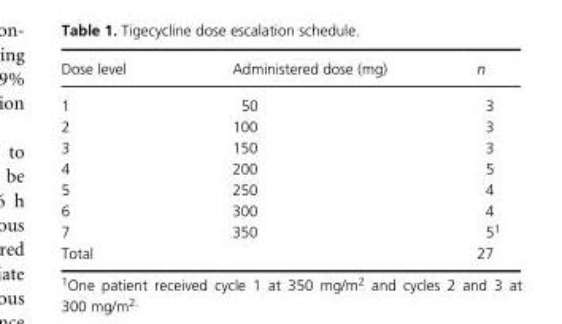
<table><thead><tr><td>Dose level</td><td>Administered dose (mg)</td><td>n</td></tr></thead><tbody><tr><td>1</td><td>50</td><td>3</td></tr><tr><td>2</td><td>100</td><td>3</td></tr><tr><td>3</td><td>150</td><td>3</td></tr><tr><td>4</td><td>200</td><td>5</td></tr><tr><td>5</td><td>250</td><td>4</td></tr><tr><td>6</td><td>300</td><td>4</td></tr><tr><td>7</td><td>350</td><td>51</td></tr><tr><td>Total</td><td></td><td>27</td></tr></tbody></table>